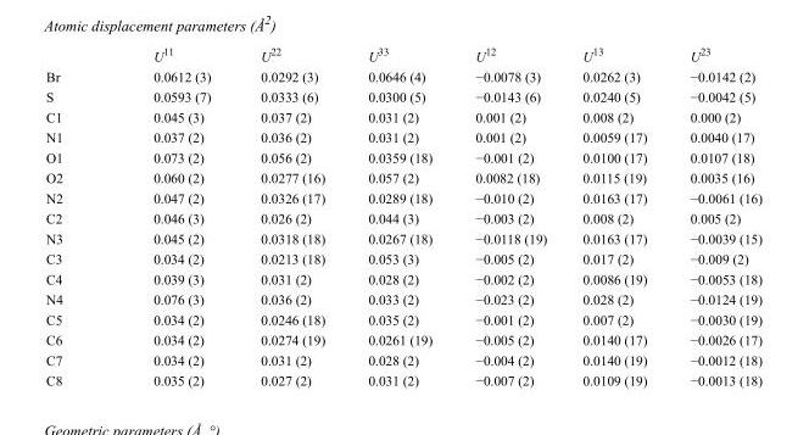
<table><thead><tr><td></td><td>U<sup>11</sup></td><td>U<sup>22</sup></td><td>U<sup>33</sup></td><td>U<sup>12</sup></td><td>U<sup>13</sup></td><td>U<sup>23</sup></td></tr></thead><tbody><tr><td>Br</td><td>0.0612 (3)</td><td>0.0292 (3)</td><td>0.0646 (4)</td><td>−0.0078 (3)</td><td>0.0262 (3)</td><td>−0.0142 (2)</td></tr><tr><td>S</td><td>0.0593 (7)</td><td>0.0333 (6)</td><td>0.0300 (5)</td><td>−0.0143 (6)</td><td>0.0240 (5)</td><td>−0.0042 (5)</td></tr><tr><td>C1</td><td>0.045 (3)</td><td>0.037 (2)</td><td>0.031 (2)</td><td>0.001 (2)</td><td>0.008 (2)</td><td>0.000 (2)</td></tr><tr><td>N1</td><td>0.037 (2)</td><td>0.036 (2)</td><td>0.031 (2)</td><td>0.001 (2)</td><td>0.0059 (17)</td><td>0.0040 (17)</td></tr><tr><td>O1</td><td>0.073 (2)</td><td>0.056 (2)</td><td>0.0359 (18)</td><td>−0.001 (2)</td><td>0.0100 (17)</td><td>0.0107 (18)</td></tr><tr><td>O2</td><td>0.060 (2)</td><td>0.0277 (16)</td><td>0.057 (2)</td><td>0.0082 (18)</td><td>0.0115 (19)</td><td>0.0035 (16)</td></tr><tr><td>N2</td><td>0.047 (2)</td><td>0.0326 (17)</td><td>0.0289 (18)</td><td>−0.010 (2)</td><td>0.0163 (17)</td><td>−0.0061 (16)</td></tr><tr><td>C2</td><td>0.046 (3)</td><td>0.026 (2)</td><td>0.044 (3)</td><td>−0.003 (2)</td><td>0.008 (2)</td><td>0.005 (2)</td></tr><tr><td>N3</td><td>0.045 (2)</td><td>0.0318 (18)</td><td>0.0267 (18)</td><td>−0.0118 (19)</td><td>0.0163 (17)</td><td>−0.0039 (15)</td></tr><tr><td>C3</td><td>0.034 (2)</td><td>0.0213 (18)</td><td>0.053 (3)</td><td>−0.005 (2)</td><td>0.017 (2)</td><td>−0.009 (2)</td></tr><tr><td>C4</td><td>0.039 (3)</td><td>0.031 (2)</td><td>0.028 (2)</td><td>−0.002 (2)</td><td>0.0086 (19)</td><td>−0.0053 (18)</td></tr><tr><td>N4</td><td>0.076 (3)</td><td>0.036 (2)</td><td>0.033 (2)</td><td>−0.023 (2)</td><td>0.028 (2)</td><td>−0.0124 (19)</td></tr><tr><td>C5</td><td>0.034 (2)</td><td>0.0246 (18)</td><td>0.035 (2)</td><td>−0.001 (2)</td><td>0.007 (2)</td><td>−0.0030 (19)</td></tr><tr><td>C6</td><td>0.034 (2)</td><td>0.0274 (19)</td><td>0.0261 (19)</td><td>−0.005 (2)</td><td>0.0140 (17)</td><td>−0.0026 (17)</td></tr><tr><td>C7</td><td>0.034 (2)</td><td>0.031 (2)</td><td>0.028 (2)</td><td>−0.004 (2)</td><td>0.0140 (19)</td><td>−0.0012 (18)</td></tr><tr><td>C8</td><td>0.035 (2)</td><td>0.027 (2)</td><td>0.031 (2)</td><td>−0.007 (2)</td><td>0.0109 (19)</td><td>−0.0013 (18)</td></tr></tbody></table>